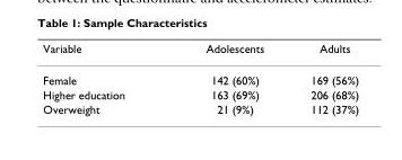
<table><thead><tr><td>Variable</td><td>Adolescents</td><td>Adults</td></tr></thead><tbody><tr><td>Female</td><td>142 (60%)</td><td>169 (56%)</td></tr><tr><td>Higher education</td><td>163 (69%)</td><td>206 (68%)</td></tr><tr><td>Overweight</td><td>21 (9%)</td><td>112 (37%)</td></tr></tbody></table>